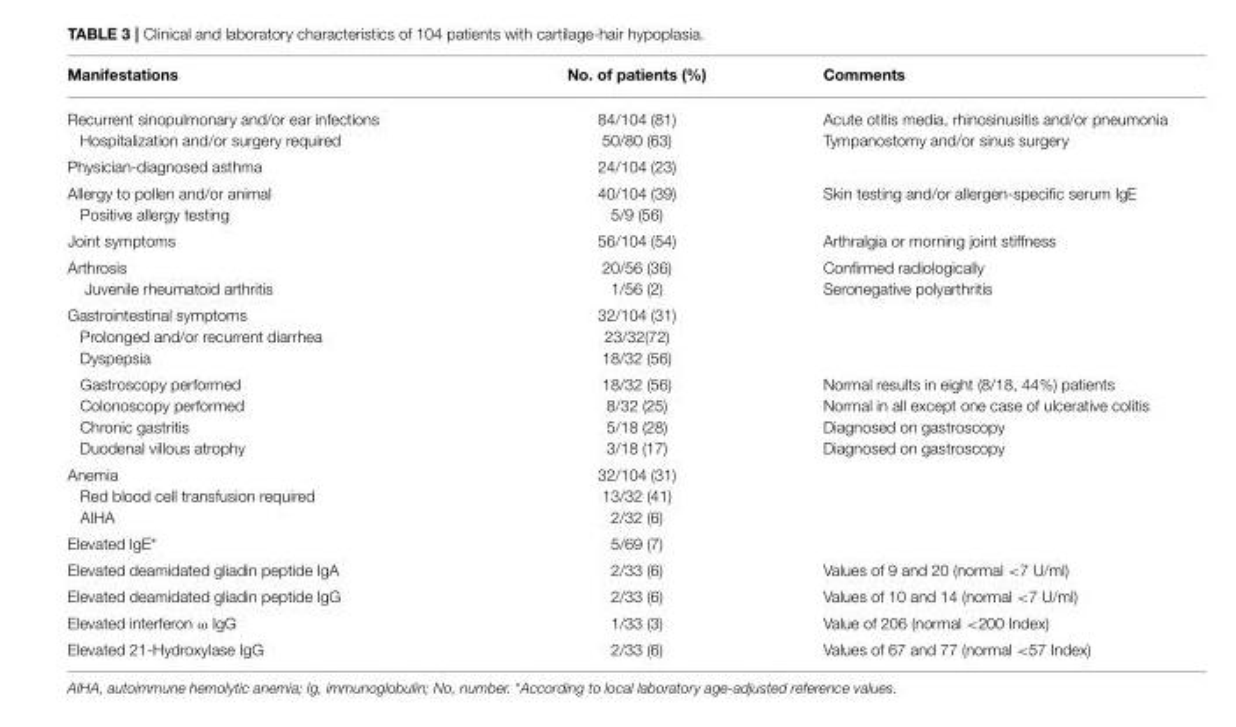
<table><thead><tr><td>Manifestations</td><td>No. of patients (%)</td><td>Comments</td></tr></thead><tbody><tr><td>Recurrent sinopulmonary and/or ear infections Hospitalization and/or surgery required</td><td>84/104 (81) 50/80 (63)</td><td>Acute otitis media, rhinosinusitis and/or pneumonia Tympanostomy and/or sinus surgery</td></tr><tr><td>Physician-diagnosed asthma</td><td>24/104 (23)</td><td></td></tr><tr><td>Allergy to pollen and/or animal Positive allergy testing</td><td>40/104 (39) 5/9 (56)</td><td>Skin testing and/or allergen-specific serum IgE</td></tr><tr><td>Joint symptoms</td><td>56/104 (54)</td><td>Arthralgia or morning joint stiffness</td></tr><tr><td>Arthrosis Juvenile rheumatoid arthritis</td><td>20/56 (36) 1/56 (2)</td><td>Confirmed radiologically Seronegative polyarthritis</td></tr><tr><td>Gastrointestinal symptoms Prolonged and/or recurrent diarrhea Dyspepsia</td><td>32/104 (31) 23/32(72) 18/32 (56)</td><td></td></tr><tr><td>Gastroscopy performed Colonoscopy performed Chronic gastritis Duodenal villous atrophy</td><td>18/32 (56) 8/32 (25) 5/18 (28) 3/18 (17)</td><td>Normal results in eight (8/18, 44%) patients Normal in all except one case of ulcerative colitis Diagnosed on gastroscopy Diagnosed on gastroscopy</td></tr><tr><td>Anemia Red blood cell transfusion required AIHA</td><td>32/104 (31) 13/32 (41) 2/32 (6)</td><td></td></tr><tr><td>Elevated IgE*</td><td>5/69 (7)</td><td></td></tr><tr><td>Elevated deamidated gliadin peptide IgA</td><td>2/33 (6)</td><td>Values of 9 and 20 (normal &lt;7 U/ml)</td></tr><tr><td>Elevated deamidated gliadin peptide IgG</td><td>2/33 (6)</td><td>Values of 10 and 14 (normal &lt;7 U/ml)</td></tr><tr><td>Elevated interferon ω IgG</td><td>1/33 (3)</td><td>Value of 206 (normal &lt;200 Index)</td></tr><tr><td>Elevated 21-Hydroxylase IgG</td><td>2/33 (6)</td><td>Values of 67 and 77 (normal &lt;57 Index)</td></tr></tbody></table>